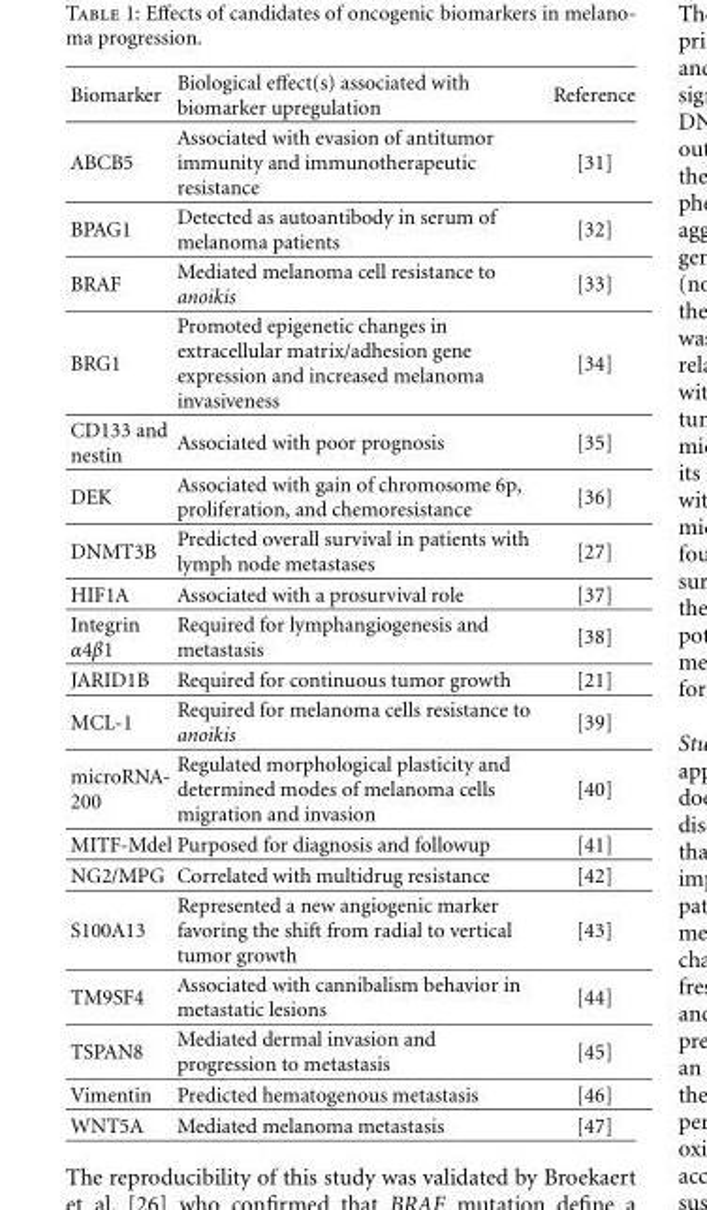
<table><thead><tr><td>Biomarker</td><td>Biological effect(s) associated with biomarker upregulation</td><td>Reference</td></tr></thead><tbody><tr><td>ABCB5</td><td>Associated with evasion of antitumor immunity and immunotherapeutic resistance</td><td>[31]</td></tr><tr><td>BPAG1</td><td>Detected as autoantibody in serum of melanoma patients</td><td>[32]</td></tr><tr><td>BRAF</td><td>Mediated melanoma cell resistance to anoikis</td><td>[33]</td></tr><tr><td>BRG1</td><td>Promoted epigenetic changes in extracellular matrix/adhesion gene expression and increased melanoma invasiveness</td><td>[34]</td></tr><tr><td>CD133 and nestin</td><td>Associated with poor prognosis</td><td>[35]</td></tr><tr><td>DEK</td><td>Associated with gain of chromosome 6p, proliferation, and chemoresistance</td><td>[36]</td></tr><tr><td>DNMT3B</td><td>Predicted overall survival in patients with lymph node metastases</td><td>[27]</td></tr><tr><td>HIF1A</td><td>Associated with a prosurvival role</td><td>[37]</td></tr><tr><td>Integrin α4β1</td><td>Required for lymphangiogenesis and metastasis</td><td>[38]</td></tr><tr><td>JARID1B</td><td>Required for continuous tumor growth</td><td>[21]</td></tr><tr><td>MCL-1</td><td>Required for melanoma cells resistance to anoikis</td><td>[39]</td></tr><tr><td>microRNA- 200</td><td>Regulated morphological plasticity and determined modes of melanoma cells migration and invasion</td><td>[40]</td></tr><tr><td>MITF-Mdel</td><td>Purposed for diagnosis and followup</td><td>[41]</td></tr><tr><td>NG2/MPG</td><td>Correlated with multidrug resistance</td><td>[42]</td></tr><tr><td>S100A13</td><td>Represented a new angiogenic marker favoring the shift from radial to vertical tumor growth</td><td>[43]</td></tr><tr><td>TM9SF4</td><td>Associated with cannibalism behavior in metastatic lesions</td><td>[44]</td></tr><tr><td>TSPAN8</td><td>Mediated dermal invasion and progression to metastasis</td><td>[45]</td></tr><tr><td>Vimentin</td><td>Predicted hematogenous metastasis</td><td>[46]</td></tr><tr><td>WNT5A</td><td>Mediated melanoma metastasis</td><td>[47]</td></tr></tbody></table>